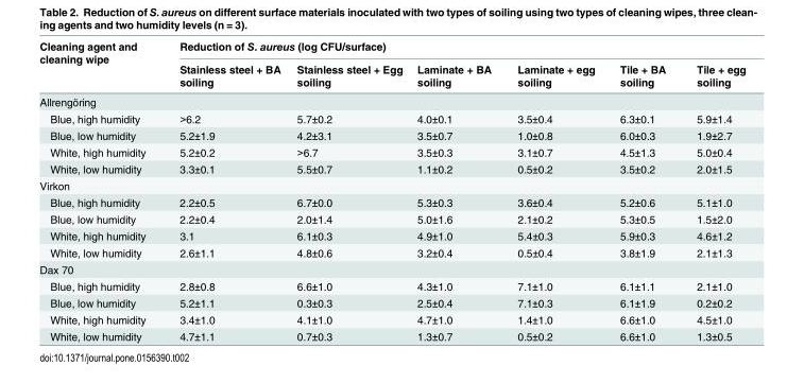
<table><thead><tr><td rowspan="2">Cleaning agent and cleaning wipe</td><td colspan="6">Reduction of S. aureus (log CFU/surface)</td></tr><tr><td>Stainless steel + BA soiling</td><td>Stainless steel + Egg soiling</td><td>Laminate + BA soiling</td><td>Laminate + egg soiling</td><td>Tile + BA soiling</td><td>Tile + egg soiling</td></tr></thead><tbody><tr><td colspan="7">Allrengöring</td></tr><tr><td>Blue, high humidity</td><td>&gt;6.2</td><td>5.7±0.2</td><td>4.0±0.1</td><td>3.5±0.4</td><td>6.3±0.1</td><td>5.9±1.4</td></tr><tr><td>Blue, low humidity</td><td>5.2±1.9</td><td>4.2±3.1</td><td>3.5±0.7</td><td>1.0±0.8</td><td>6.0±0.3</td><td>1.9±2.7</td></tr><tr><td>White, high humidity</td><td>5.2±0.2</td><td>&gt;6.7</td><td>3.5±0.3</td><td>3.1±0.7</td><td>4.5±1.3</td><td>5.0±0.4</td></tr><tr><td>White, low humidity</td><td>3.3±0.1</td><td>5.5±0.7</td><td>1.1±0.2</td><td>0.5±0.2</td><td>3.5±0.2</td><td>2.0±1.5</td></tr><tr><td colspan="7">Virkon</td></tr><tr><td>Blue, high humidity</td><td>2.2±0.5</td><td>6.7±0.0</td><td>5.3±0.3</td><td>3.6±0.4</td><td>5.2±0.6</td><td>5.1±1.0</td></tr><tr><td>Blue, low humidity</td><td>2.2±0.4</td><td>2.0±1.4</td><td>5.0±1.6</td><td>2.1±0.2</td><td>5.3±0.5</td><td>1.5±2.0</td></tr><tr><td>White, high humidity</td><td>3.1</td><td>6.1±0.3</td><td>4.9±1.0</td><td>5.4±0.3</td><td>5.9±0.3</td><td>4.6±1.2</td></tr><tr><td>White, low humidity</td><td>2.6±1.1</td><td>4.8±0.6</td><td>3.2±0.4</td><td>0.5±0.4</td><td>3.8±1.9</td><td>2.1±1.3</td></tr><tr><td colspan="7">Dax 70</td></tr><tr><td>Blue, high humidity</td><td>2.8±0.8</td><td>6.6±1.0</td><td>4.3±1.0</td><td>7.1±1.0</td><td>6.1±1.1</td><td>2.1±1.0</td></tr><tr><td>Blue, low humidity</td><td>5.2±1.1</td><td>0.3±0.3</td><td>2.5±0.4</td><td>7.1±0.3</td><td>6.1±1.9</td><td>0.2±0.2</td></tr><tr><td>White, high humidity</td><td>3.4±1.0</td><td>4.1±1.0</td><td>4.7±1.0</td><td>1.4±1.0</td><td>6.6±1.0</td><td>4.5±1.0</td></tr><tr><td>White, low humidity</td><td>4.7±1.1</td><td>0.7±0.3</td><td>1.3±0.7</td><td>0.5±0.2</td><td>6.6±1.0</td><td>1.3±0.5</td></tr></tbody></table>